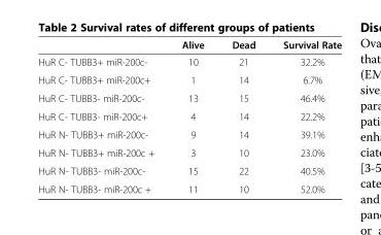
<table><thead><tr><td></td><td>Alive</td><td>Dead</td><td>Survival Rate</td></tr></thead><tbody><tr><td>HuR C- TUBB3+ miR-200c-</td><td>10</td><td>21</td><td>32.2%</td></tr><tr><td>HuR C- TUBB3+ miR-200c+</td><td>1</td><td>14</td><td>6.7%</td></tr><tr><td>HuR C- TUBB3- miR-200c-</td><td>13</td><td>15</td><td>46.4%</td></tr><tr><td>HuR C- TUBB3- miR-200c+</td><td>4</td><td>14</td><td>22.2%</td></tr><tr><td>HuR N- TUBB3+ miR-200c-</td><td>9</td><td>14</td><td>39.1%</td></tr><tr><td>HuR N- TUBB3+ miR-200c +</td><td>3</td><td>10</td><td>23.0%</td></tr><tr><td>HuR N- TUBB3- miR-200c-</td><td>15</td><td>22</td><td>40.5%</td></tr><tr><td>HuR N- TUBB3- miR-200c +</td><td>11</td><td>10</td><td>52.0%</td></tr></tbody></table>